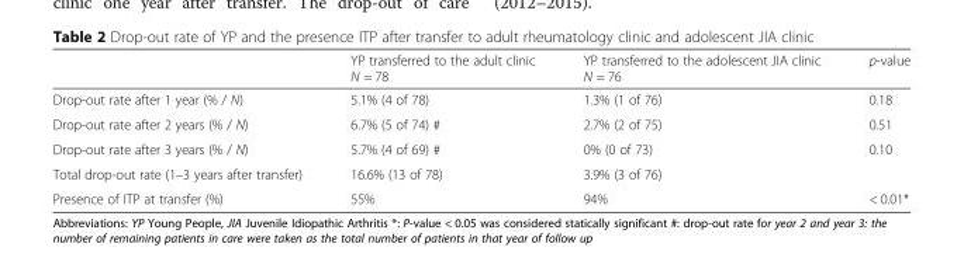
<table><thead><tr><td></td><td>YP transferred to the adult clinic N = 78</td><td>YP transferred to the adolescent JIA clinic N = 76</td><td>p-value</td></tr></thead><tbody><tr><td>Drop-out rate after 1 year (% / N)</td><td>5.1% (4 of 78)</td><td>1.3% (1 of 76)</td><td>0.18</td></tr><tr><td>Drop-out rate after 2 years (% / N)</td><td>6.7% (5 of 74) #</td><td>2.7% (2 of 75)</td><td>0.51</td></tr><tr><td>Drop-out rate after 3 years (% / N)</td><td>5.7% (4 of 69) #</td><td>0% (0 of 73)</td><td>0.10</td></tr><tr><td>Total drop-out rate (1–3 years after transfer)</td><td>16.6% (13 of 78)</td><td>3.9% (3 of 76)</td><td></td></tr><tr><td>Presence of ITP at transfer (%)</td><td>55%</td><td>94%</td><td>&lt; 0.01*</td></tr></tbody></table>